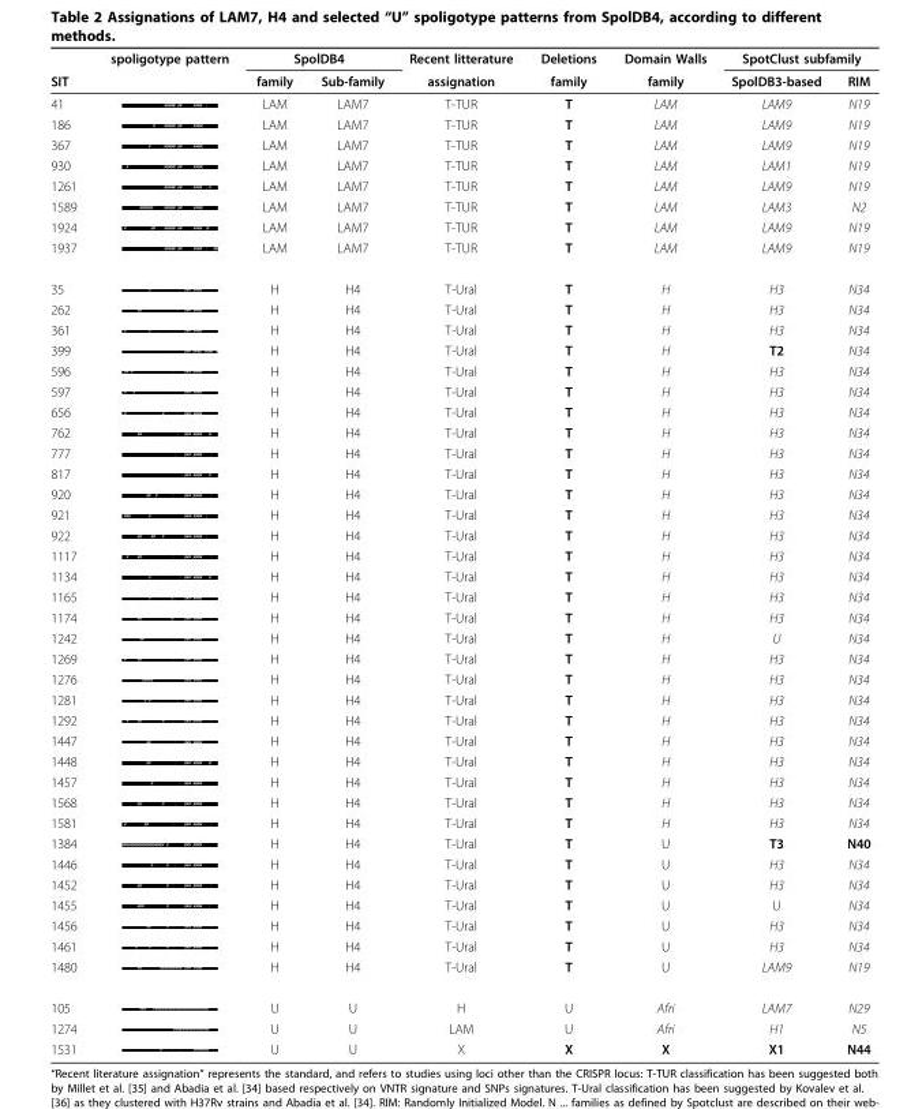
<table><thead><tr><td rowspan="2">SIT</td><td rowspan="2">spoligotype pattern</td><td colspan="2">SpolDB4</td><td rowspan="2">Recent litterature assignation</td><td rowspan="2">Deletions family</td><td rowspan="2">Domain Walls family</td><td colspan="2">SpotClust subfamily</td></tr><tr><td>family</td><td>Sub-family</td><td>SpolDB3-based</td><td>RIM</td></tr></thead><tbody><tr><td>41</td><td></td><td>LAM</td><td>LAM7</td><td>T-TUR</td><td>T</td><td>LAM</td><td>LAM9</td><td>N19</td></tr><tr><td>186</td><td></td><td>LAM</td><td>LAM7</td><td>T-TUR</td><td>T</td><td>LAM</td><td>LAM9</td><td>N19</td></tr><tr><td>367</td><td></td><td>LAM</td><td>LAM7</td><td>T-TUR</td><td>T</td><td>LAM</td><td>LAM9</td><td>N19</td></tr><tr><td>930</td><td></td><td>LAM</td><td>LAM7</td><td>T-TUR</td><td>T</td><td>LAM</td><td>LAM1</td><td>N19</td></tr><tr><td>1261</td><td></td><td>LAM</td><td>LAM7</td><td>T-TUR</td><td>T</td><td>LAM</td><td>LAM9</td><td>N19</td></tr><tr><td>1589</td><td></td><td>LAM</td><td>LAM7</td><td>T-TUR</td><td>T</td><td>LAM</td><td>LAM3</td><td>N2</td></tr><tr><td>1924</td><td></td><td>LAM</td><td>LAM7</td><td>T-TUR</td><td>T</td><td>LAM</td><td>LAM9</td><td>N19</td></tr><tr><td>1937</td><td></td><td>LAM</td><td>LAM7</td><td>T-TUR</td><td>T</td><td>LAM</td><td>LAM9</td><td>N19</td></tr><tr><td>35</td><td></td><td>H</td><td>H4</td><td>T-Ural</td><td>T</td><td>H</td><td>H3</td><td>N34</td></tr><tr><td>262</td><td></td><td>H</td><td>H4</td><td>T-Ural</td><td>T</td><td>H</td><td>H3</td><td>N34</td></tr><tr><td>361</td><td></td><td>H</td><td>H4</td><td>T-Ural</td><td>T</td><td>H</td><td>H3</td><td>N34</td></tr><tr><td>399</td><td></td><td>H</td><td>H4</td><td>T-Ural</td><td>T</td><td>H</td><td>T2</td><td>N34</td></tr><tr><td>596</td><td></td><td>H</td><td>H4</td><td>T-Ural</td><td>T</td><td>H</td><td>H3</td><td>N34</td></tr><tr><td>597</td><td></td><td>H</td><td>H4</td><td>T-Ural</td><td>T</td><td>H</td><td>H3</td><td>N34</td></tr><tr><td>656</td><td></td><td>H</td><td>H4</td><td>T-Ural</td><td>T</td><td>H</td><td>H3</td><td>N34</td></tr><tr><td>762</td><td></td><td>H</td><td>H4</td><td>T-Ural</td><td>T</td><td>H</td><td>H3</td><td>N34</td></tr><tr><td>777</td><td></td><td>H</td><td>H4</td><td>T-Ural</td><td>T</td><td>H</td><td>H3</td><td>N34</td></tr><tr><td>817</td><td></td><td>H</td><td>H4</td><td>T-Ural</td><td>T</td><td>H</td><td>H3</td><td>N34</td></tr><tr><td>920</td><td></td><td>H</td><td>H4</td><td>T-Ural</td><td>T</td><td>H</td><td>H3</td><td>N34</td></tr><tr><td>921</td><td></td><td>H</td><td>H4</td><td>T-Ural</td><td>T</td><td>H</td><td>H3</td><td>N34</td></tr><tr><td>922</td><td></td><td>H</td><td>H4</td><td>T-Ural</td><td>T</td><td>H</td><td>H3</td><td>N34</td></tr><tr><td>1117</td><td></td><td>H</td><td>H4</td><td>T-Ural</td><td>T</td><td>H</td><td>H3</td><td>N34</td></tr><tr><td>1134</td><td></td><td>H</td><td>H4</td><td>T-Ural</td><td>T</td><td>H</td><td>H3</td><td>N34</td></tr><tr><td>1165</td><td></td><td>H</td><td>H4</td><td>T-Ural</td><td>T</td><td>H</td><td>H3</td><td>N34</td></tr><tr><td>1174</td><td></td><td>H</td><td>H4</td><td>T-Ural</td><td>T</td><td>H</td><td>H3</td><td>N34</td></tr><tr><td>1242</td><td></td><td>H</td><td>H4</td><td>T-Ural</td><td>T</td><td>H</td><td>U</td><td>N34</td></tr><tr><td>1269</td><td></td><td>H</td><td>H4</td><td>T-Ural</td><td>T</td><td>H</td><td>H3</td><td>N34</td></tr><tr><td>1276</td><td></td><td>H</td><td>H4</td><td>T-Ural</td><td>T</td><td>H</td><td>H3</td><td>N34</td></tr><tr><td>1281</td><td></td><td>H</td><td>H4</td><td>T-Ural</td><td>T</td><td>H</td><td>H3</td><td>N34</td></tr><tr><td>1292</td><td></td><td>H</td><td>H4</td><td>T-Ural</td><td>T</td><td>H</td><td>H3</td><td>N34</td></tr><tr><td>1447</td><td></td><td>H</td><td>H4</td><td>T-Ural</td><td>T</td><td>H</td><td>H3</td><td>N34</td></tr><tr><td>1448</td><td></td><td>H</td><td>H4</td><td>T-Ural</td><td>T</td><td>H</td><td>H3</td><td>N34</td></tr><tr><td>1457</td><td></td><td>H</td><td>H4</td><td>T-Ural</td><td>T</td><td>H</td><td>H3</td><td>N34</td></tr><tr><td>1568</td><td></td><td>H</td><td>H4</td><td>T-Ural</td><td>T</td><td>H</td><td>H3</td><td>N34</td></tr><tr><td>1581</td><td></td><td>H</td><td>H4</td><td>T-Ural</td><td>T</td><td>H</td><td>H3</td><td>N34</td></tr><tr><td>1384</td><td></td><td>H</td><td>H4</td><td>T-Ural</td><td>T</td><td>U</td><td>T3</td><td>N40</td></tr><tr><td>1446</td><td></td><td>H</td><td>H4</td><td>T-Ural</td><td>T</td><td>U</td><td>H3</td><td>N34</td></tr><tr><td>1452</td><td></td><td>H</td><td>H4</td><td>T-Ural</td><td>T</td><td>U</td><td>H3</td><td>N34</td></tr><tr><td>1455</td><td></td><td>H</td><td>H4</td><td>T-Ural</td><td>T</td><td>U</td><td>U</td><td>N34</td></tr><tr><td>1456</td><td></td><td>H</td><td>H4</td><td>T-Ural</td><td>T</td><td>U</td><td>H3</td><td>N34</td></tr><tr><td>1461</td><td></td><td>H</td><td>H4</td><td>T-Ural</td><td>T</td><td>U</td><td>H3</td><td>N34</td></tr><tr><td>1480</td><td></td><td>H</td><td>H4</td><td>T-Ural</td><td>T</td><td>U</td><td>LAM9</td><td>N19</td></tr><tr><td>105</td><td></td><td>U</td><td>U</td><td>H</td><td>U</td><td>Afri</td><td>LAM7</td><td>N29</td></tr><tr><td>1274</td><td></td><td>U</td><td>U</td><td>LAM</td><td>U</td><td>Afri</td><td>H1</td><td>N5</td></tr><tr><td>1531</td><td></td><td>U</td><td>U</td><td>X</td><td>X</td><td>X</td><td>X1</td><td>N44</td></tr></tbody></table>